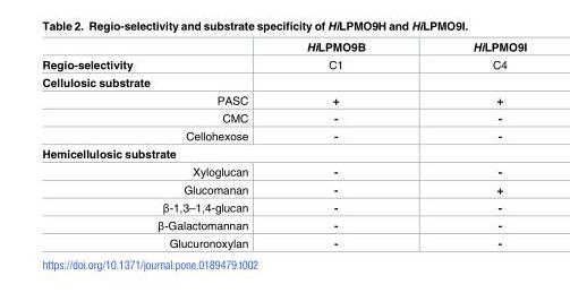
<table><thead><tr><td></td><td>HiLPMO9B</td><td>HiLPMO9I</td></tr></thead><tbody><tr><td>Regio-selectivity</td><td>C1</td><td>C4</td></tr><tr><td colspan="3">Cellulosic substrate</td></tr><tr><td>PASC</td><td>+</td><td>+</td></tr><tr><td>CMC</td><td>-</td><td>-</td></tr><tr><td>Cellohexose</td><td>-</td><td>-</td></tr><tr><td colspan="3">Hemicellulosic substrate</td></tr><tr><td>Xyloglucan</td><td>-</td><td>-</td></tr><tr><td>Glucomanan</td><td>-</td><td>+</td></tr><tr><td>β-1,3–1,4-glucan</td><td>-</td><td>-</td></tr><tr><td>β-Galactomannan</td><td>-</td><td>-</td></tr><tr><td>Glucuronoxylan</td><td>-</td><td>-</td></tr></tbody></table>